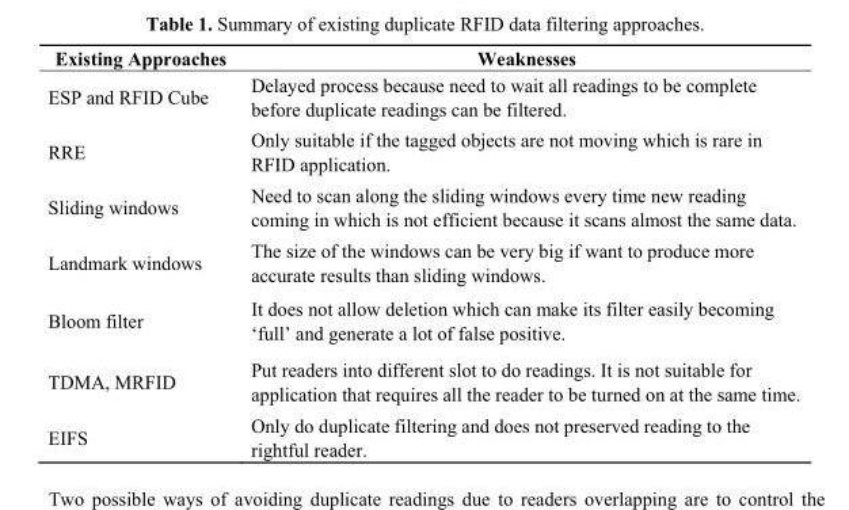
<table><thead><tr><td>Existing Approaches</td><td>Weaknesses</td></tr></thead><tbody><tr><td>ESP and RFID Cube</td><td>Delayed process because need to wait all readings to be complete before duplicate readings can be filtered.</td></tr><tr><td>RRE</td><td>Only suitable if the tagged objects are not moving which is rare in RFID application.</td></tr><tr><td>Sliding windows</td><td>Need to scan along the sliding windows every time new reading coming in which is not efficient because it scans almost the same data.</td></tr><tr><td>Landmark windows</td><td>The size of the windows can be very big if want to produce more accurate results than sliding windows.</td></tr><tr><td>Bloom filter</td><td>It does not allow deletion which can make its filter easily becoming ‘full’ and generate a lot of false positive.</td></tr><tr><td>TDMA, MRFID</td><td>Put readers into different slot to do readings. It is not suitable for application that requires all the reader to be turned on at the same time.</td></tr><tr><td>EIFS</td><td>Only do duplicate filtering and does not preserved reading to the rightful reader.</td></tr></tbody></table>